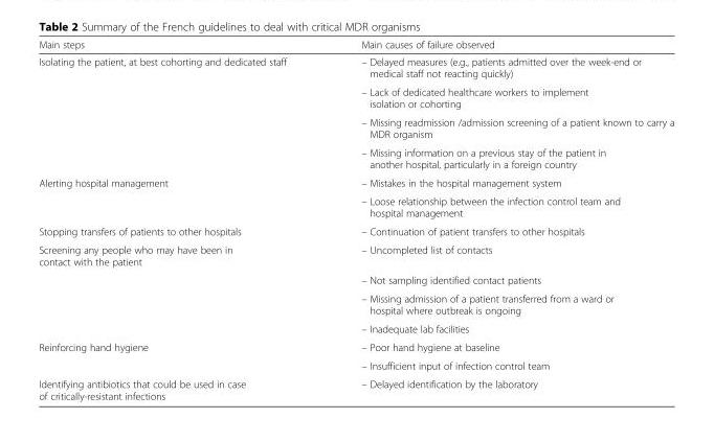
<table><thead><tr><td>Main steps</td><td>Main causes of failure observed</td></tr></thead><tbody><tr><td rowspan="4">Isolating the patient, at best cohorting and dedicated staff</td><td>– Delayed measures (e.g., patients admitted over the week-end or medical staff not reacting quickly)</td></tr><tr><td>– Lack of dedicated healthcare workers to implement isolation or cohorting</td></tr><tr><td>– Missing readmission /admission screening of a patient known to carry a MDR organism</td></tr><tr><td>– Missing information on a previous stay of the patient in another hospital, particularly in a foreign country</td></tr><tr><td rowspan="2">Alerting hospital management</td><td>– Mistakes in the hospital management system</td></tr><tr><td>– Loose relationship between the infection control team and hospital management</td></tr><tr><td>Stopping transfers of patients to other hospitals</td><td>– Continuation of patient transfers to other hospitals</td></tr><tr><td rowspan="4">Screening any people who may have been in contact with the patient</td><td>– Uncompleted list of contacts</td></tr><tr><td>– Not sampling identified contact patients</td></tr><tr><td>– Missing admission of a patient transferred from a ward or hospital where outbreak is ongoing</td></tr><tr><td>– Inadequate lab facilities</td></tr><tr><td rowspan="2">Reinforcing hand hygiene</td><td>– Poor hand hygiene at baseline</td></tr><tr><td>– Insufficient input of infection control team</td></tr><tr><td>Identifying antibiotics that could be used in case of critically-resistant infections</td><td>– Delayed identification by the laboratory</td></tr></tbody></table>